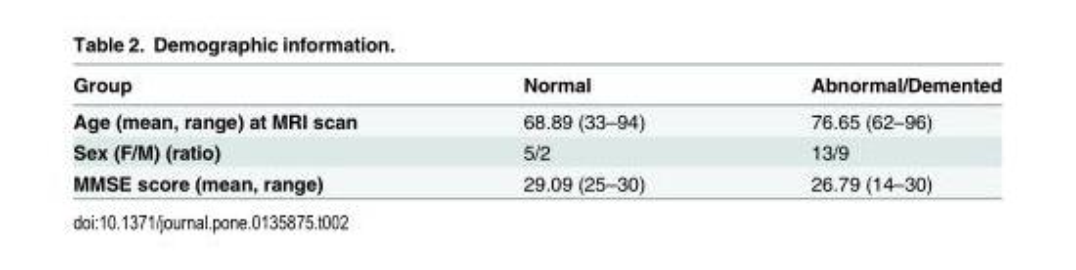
<table><thead><tr><td>Group</td><td>Normal</td><td>Abnormal/Demented</td></tr></thead><tbody><tr><td>Age (mean, range) at MRI scan</td><td>68.89 (33–94)</td><td>76.65 (62–96)</td></tr><tr><td>Sex (F/M) (ratio)</td><td>5/2</td><td>13/9</td></tr><tr><td>MMSE score (mean, range)</td><td>29.09 (25–30)</td><td>26.79 (14–30)</td></tr></tbody></table>